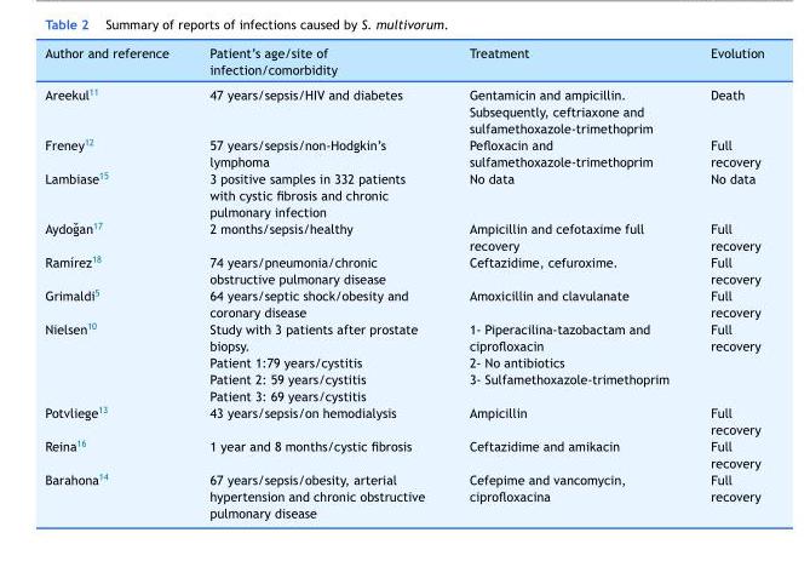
<table><thead><tr><td>Author and reference</td><td>Patient’s age/site of infection/comorbidity</td><td>Treatment</td><td>Evolution</td></tr></thead><tbody><tr><td>Areekul<sup>11</sup></td><td>47 years/sepsis/HIV and diabetes</td><td>Gentamicin and ampicillin. Subsequently, ceftriaxone and sulfamethoxazole-trimethoprim</td><td>Death</td></tr><tr><td>Freney<sup>12</sup></td><td>57 years/sepsis/non-Hodgkin’s lymphoma</td><td>Pefloxacin and sulfamethoxazole-trimethoprim</td><td>Full recovery</td></tr><tr><td>Lambiase<sup>15</sup></td><td>3 positive samples in 332 patients with cystic fibrosis and chronic pulmonary infection</td><td>No data</td><td>No data</td></tr><tr><td>Aydo˘gan17</td><td>2 months/sepsis/healthy</td><td>Ampicillin and cefotaxime full recovery</td><td>Full recovery</td></tr><tr><td>Ramírez<sup>18</sup></td><td>74 years/pneumonia/chronic obstructive pulmonary disease</td><td>Ceftazidime, cefuroxime.</td><td>Full recovery</td></tr><tr><td>Grimaldi<sup>5</sup></td><td>64 years/septic shock/obesity and coronary disease</td><td>Amoxicillin and clavulanate</td><td>Full recovery</td></tr><tr><td>Nielsen<sup>10</sup></td><td>Study with 3 patients after prostate biopsy. Patient 1:79 years/cystitis Patient 2: 59 years/cystitis Patient 3: 69 years/cystitis</td><td>1- Piperacilina-tazobactam and ciprofloxacin 2- No antibiotics 3- Sulfamethoxazole-trimethoprim</td><td>Full recovery</td></tr><tr><td>Potvliege<sup>13</sup></td><td>43 years/sepsis/on hemodialysis</td><td>Ampicillin</td><td>Full recovery</td></tr><tr><td>Reina<sup>16</sup></td><td>1 year and 8 months/cystic fibrosis</td><td>Ceftazidime and amikacin</td><td>Full recovery</td></tr><tr><td>Barahona<sup>14</sup></td><td>67 years/sepsis/obesity, arterial hypertension and chronic obstructive pulmonary disease</td><td>Cefepime and vancomycin, ciprofloxacina</td><td>Full recovery</td></tr></tbody></table>